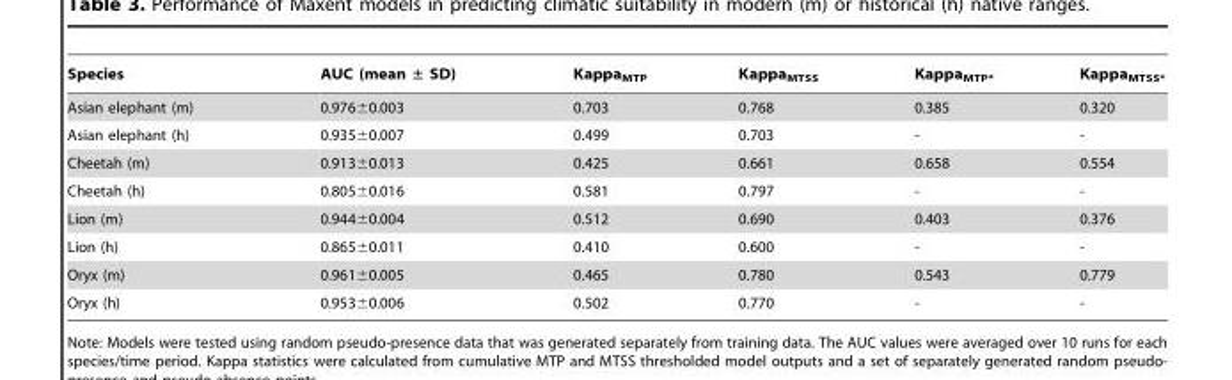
<table><thead><tr><td>Species</td><td>AUC (mean ± SD)</td><td>Kappa<sub>MTP</sub></td><td>Kappa<sub>MTSS</sub></td><td>Kappa<sub>MTP</sub>*</td><td>Kappa<sub>MTSS</sub>*</td></tr></thead><tbody><tr><td>Asian elephant (m)</td><td>0.976±0.003</td><td>0.703</td><td>0.768</td><td>0.385</td><td>0.320</td></tr><tr><td>Asian elephant (h)</td><td>0.935±0.007</td><td>0.499</td><td>0.703</td><td>-</td><td>-</td></tr><tr><td>Cheetah (m)</td><td>0.913±0.013</td><td>0.425</td><td>0.661</td><td>0.658</td><td>0.554</td></tr><tr><td>Cheetah (h)</td><td>0.805±0.016</td><td>0.581</td><td>0.797</td><td>-</td><td>-</td></tr><tr><td>Lion (m)</td><td>0.944±0.004</td><td>0.512</td><td>0.690</td><td>0.403</td><td>0.376</td></tr><tr><td>Lion (h)</td><td>0.865±0.011</td><td>0.410</td><td>0.600</td><td>-</td><td>-</td></tr><tr><td>Oryx (m)</td><td>0.961±0.005</td><td>0.465</td><td>0.780</td><td>0.543</td><td>0.779</td></tr><tr><td>Oryx (h)</td><td>0.953±0.006</td><td>0.502</td><td>0.770</td><td>-</td><td>-</td></tr></tbody></table>